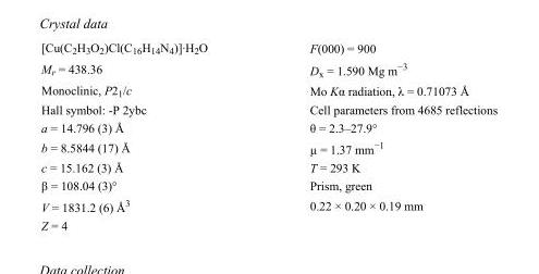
<table><tbody><tr><td>[Cu(C<sub>2</sub>H<sub>3</sub>O<sub>2</sub>)Cl(C<sub>16</sub>H<sub>14</sub>N<sub>4</sub>)]·H<sub>2</sub>O</td><td>F(000) = 900</td></tr><tr><td>M<sub>r</sub> = 438.36</td><td>D<sub>x</sub> = 1.590 Mg m<sup>−3</sup></td></tr><tr><td>Monoclinic, P2<sub>1</sub>/c</td><td>Mo Kα radiation, λ = 0.71073 Å</td></tr><tr><td>Hall symbol: -P 2ybc</td><td>Cell parameters from 4685 reflections</td></tr><tr><td>a = 14.796 (3) Å</td><td>θ = 2.3–27.9°</td></tr><tr><td>b = 8.5844 (17) Å</td><td>µ = 1.37 mm<sup>−1</sup></td></tr><tr><td>c = 15.162 (3) Å</td><td>T = 293 K</td></tr><tr><td>β = 108.04 (3)°</td><td>Prism, green</td></tr><tr><td>V = 1831.2 (6) Å<sup>3</sup></td><td>0.22 × 0.20 × 0.19 mm</td></tr><tr><td>Z = 4</td><td></td></tr></tbody></table>